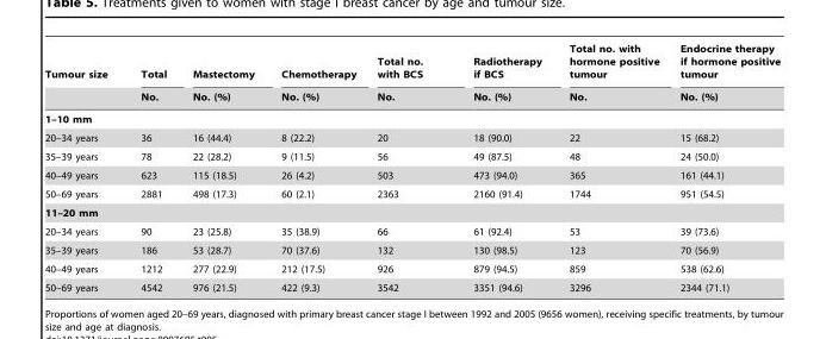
<table><thead><tr><td rowspan="2">Tumour size</td><td rowspan="2">Total No.</td><td rowspan="2">Mastectomy No. (%)</td><td rowspan="2">Chemotherapy No. (%)</td><td rowspan="2">Total no. with BCS No.</td><td rowspan="2">Radiotherapy if BCS No. (%)</td><td rowspan="2">Total no. with hormone positive tumour No.</td><td rowspan="2">Endocrine therapy if hormone positive tumour No. (%)</td></tr><tr></tr></thead><tbody><tr><td colspan="8">1–10 mm</td></tr><tr><td>20–34 years</td><td>36</td><td>16 (44.4)</td><td>8 (22.2)</td><td>20</td><td>18 (90.0)</td><td>22</td><td>15 (68.2)</td></tr><tr><td>35–39 years</td><td>78</td><td>22 (28.2)</td><td>9 (11.5)</td><td>56</td><td>49 (87.5)</td><td>48</td><td>24 (50.0)</td></tr><tr><td>40–49 years</td><td>623</td><td>115 (18.5)</td><td>26 (4.2)</td><td>503</td><td>473 (94.0)</td><td>365</td><td>161 (44.1)</td></tr><tr><td>50–69 years</td><td>2881</td><td>498 (17.3)</td><td>60 (2.1)</td><td>2363</td><td>2160 (91.4)</td><td>1744</td><td>951 (54.5)</td></tr><tr><td colspan="8">11–20 mm</td></tr><tr><td>20–34 years</td><td>90</td><td>23 (25.8)</td><td>35 (38.9)</td><td>66</td><td>61 (92.4)</td><td>53</td><td>39 (73.6)</td></tr><tr><td>35–39 years</td><td>186</td><td>53 (28.7)</td><td>70 (37.6)</td><td>132</td><td>130 (98.5)</td><td>123</td><td>70 (56.9)</td></tr><tr><td>40–49 years</td><td>1212</td><td>277 (22.9)</td><td>212 (17.5)</td><td>926</td><td>879 (94.5)</td><td>859</td><td>538 (62.6)</td></tr><tr><td>50–69 years</td><td>4542</td><td>976 (21.5)</td><td>422 (9.3)</td><td>3542</td><td>3351 (94.6)</td><td>3296</td><td>2344 (71.1)</td></tr></tbody></table>